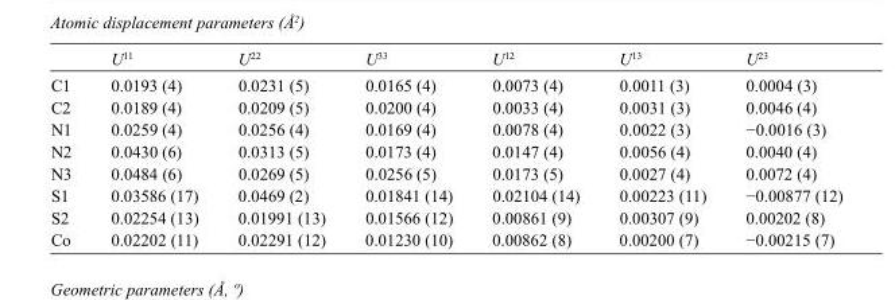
<table><thead><tr><td></td><td>U<sup>11</sup></td><td>U<sup>22</sup></td><td>U<sup>33</sup></td><td>U<sup>12</sup></td><td>U<sup>13</sup></td><td>U<sup>23</sup></td></tr></thead><tbody><tr><td>C1</td><td>0.0193 (4)</td><td>0.0231 (5)</td><td>0.0165 (4)</td><td>0.0073 (4)</td><td>0.0011 (3)</td><td>0.0004 (3)</td></tr><tr><td>C2</td><td>0.0189 (4)</td><td>0.0209 (5)</td><td>0.0200 (4)</td><td>0.0033 (4)</td><td>0.0031 (3)</td><td>0.0046 (4)</td></tr><tr><td>N1</td><td>0.0259 (4)</td><td>0.0256 (4)</td><td>0.0169 (4)</td><td>0.0078 (4)</td><td>0.0022 (3)</td><td>−0.0016 (3)</td></tr><tr><td>N2</td><td>0.0430 (6)</td><td>0.0313 (5)</td><td>0.0173 (4)</td><td>0.0147 (4)</td><td>0.0056 (4)</td><td>0.0040 (4)</td></tr><tr><td>N3</td><td>0.0484 (6)</td><td>0.0269 (5)</td><td>0.0256 (5)</td><td>0.0173 (5)</td><td>0.0027 (4)</td><td>0.0072 (4)</td></tr><tr><td>S1</td><td>0.03586 (17)</td><td>0.0469 (2)</td><td>0.01841 (14)</td><td>0.02104 (14)</td><td>0.00223 (11)</td><td>−0.00877 (12)</td></tr><tr><td>S2</td><td>0.02254 (13)</td><td>0.01991 (13)</td><td>0.01566 (12)</td><td>0.00861 (9)</td><td>0.00307 (9)</td><td>0.00202 (8)</td></tr><tr><td>Co</td><td>0.02202 (11)</td><td>0.02291 (12)</td><td>0.01230 (10)</td><td>0.00862 (8)</td><td>0.00200 (7)</td><td>−0.00215 (7)</td></tr></tbody></table>